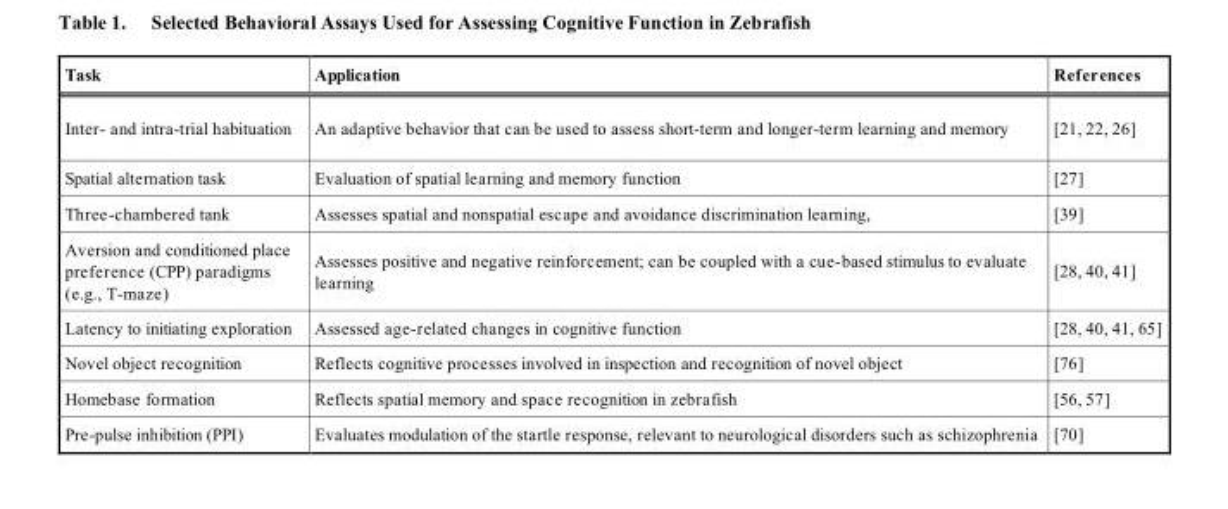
<table><thead><tr><td>Task</td><td>Application</td><td>References</td></tr></thead><tbody><tr><td>Inter- and intra-trial habituation</td><td>An adaptive behavior that can be used to assess short-term and longer-term learning and memory</td><td>[21, 22, 26]</td></tr><tr><td>Spatial alternation task</td><td>Evaluation of spatial learning and memory function</td><td>[27]</td></tr><tr><td>Three-chambered tank</td><td>Assesses spatial and nonspatial escape and avoidance discrimination learning,</td><td>[39]</td></tr><tr><td>Aversion and conditioned place preference (CPP) paradigms (e.g., T-maze)</td><td>Assesses positive and negative reinforcement; can be coupled with a cue-based stimulus to evaluate learning</td><td>[28, 40, 41]</td></tr><tr><td>Latency to initiating exploration</td><td>Assessed age-related changes in cognitive function</td><td>[28, 40, 41, 65]</td></tr><tr><td>Novel object recognition</td><td>Reflects cognitive processes involved in inspection and recognition of novel object</td><td>[76]</td></tr><tr><td>Homebase formation</td><td>Reflects spatial memory and space recognition in zebrafish</td><td>[56, 57]</td></tr><tr><td>Pre-pulse inhibition (PPI)</td><td>Evaluates modulation of the startle response, relevant to neurological disorders such as schizophrenia</td><td>[70]</td></tr></tbody></table>